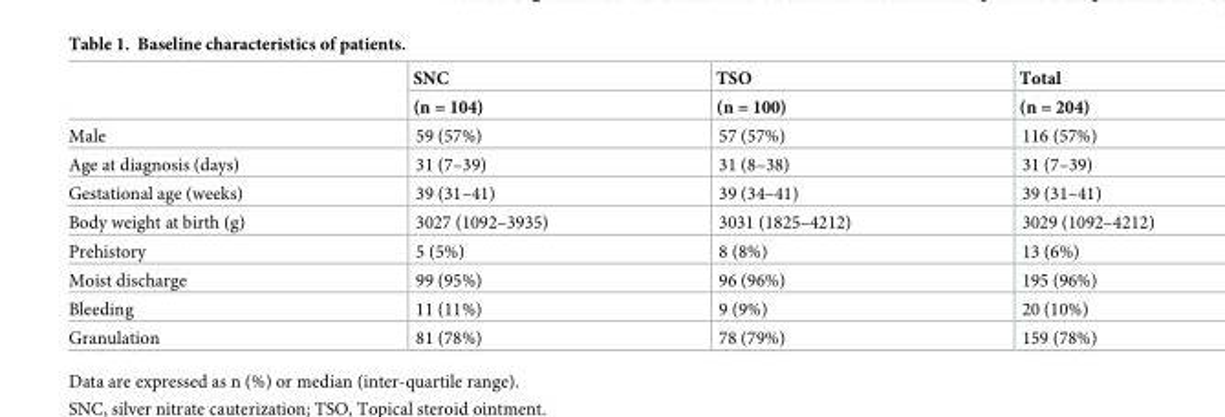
<table><thead><tr><td rowspan="2"></td><td rowspan="2">SNC (n = 104)</td><td rowspan="2">TSO (n = 100)</td><td rowspan="2">Total (n = 204)</td></tr><tr></tr></thead><tbody><tr><td>Male</td><td>59 (57%)</td><td>57 (57%)</td><td>116 (57%)</td></tr><tr><td>Age at diagnosis (days)</td><td>31 (7–39)</td><td>31 (8–38)</td><td>31 (7–39)</td></tr><tr><td>Gestational age (weeks)</td><td>39 (31–41)</td><td>39 (34–41)</td><td>39 (31–41)</td></tr><tr><td>Body weight at birth (g)</td><td>3027 (1092–3935)</td><td>3031 (1825–4212)</td><td>3029 (1092–4212)</td></tr><tr><td>Prehistory</td><td>5 (5%)</td><td>8 (8%)</td><td>13 (6%)</td></tr><tr><td>Moist discharge</td><td>99 (95%)</td><td>96 (96%)</td><td>195 (96%)</td></tr><tr><td>Bleeding</td><td>11 (11%)</td><td>9 (9%)</td><td>20 (10%)</td></tr><tr><td>Granulation</td><td>81 (78%)</td><td>78 (79%)</td><td>159 (78%)</td></tr></tbody></table>